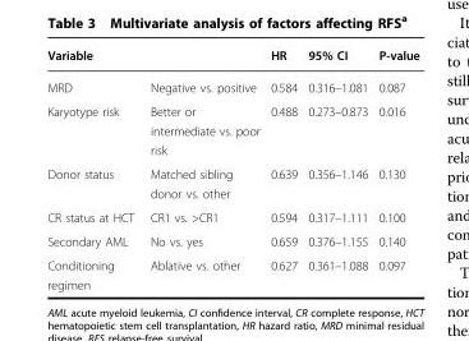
<table><thead><tr><td>Variable</td><td></td><td>HR</td><td>95% CI</td><td>P-value</td></tr></thead><tbody><tr><td>MRD</td><td>Negative vs. positive</td><td>0.584</td><td>0.316–1.081</td><td>0.087</td></tr><tr><td>Karyotype risk</td><td>Better or intermediate vs. poor risk</td><td>0.488</td><td>0.273–0.873</td><td>0.016</td></tr><tr><td>Donor status</td><td>Matched sibling donor vs. other</td><td>0.639</td><td>0.356–1.146</td><td>0.130</td></tr><tr><td>CR status at HCT</td><td>CR1 vs. &gt;CR1</td><td>0.594</td><td>0.317–1.111</td><td>0.100</td></tr><tr><td>Secondary AML</td><td>No vs. yes</td><td>0.659</td><td>0.376–1.155</td><td>0.140</td></tr><tr><td>Conditioning regimen</td><td>Ablative vs. other</td><td>0.627</td><td>0.361–1.088</td><td>0.097</td></tr></tbody></table>